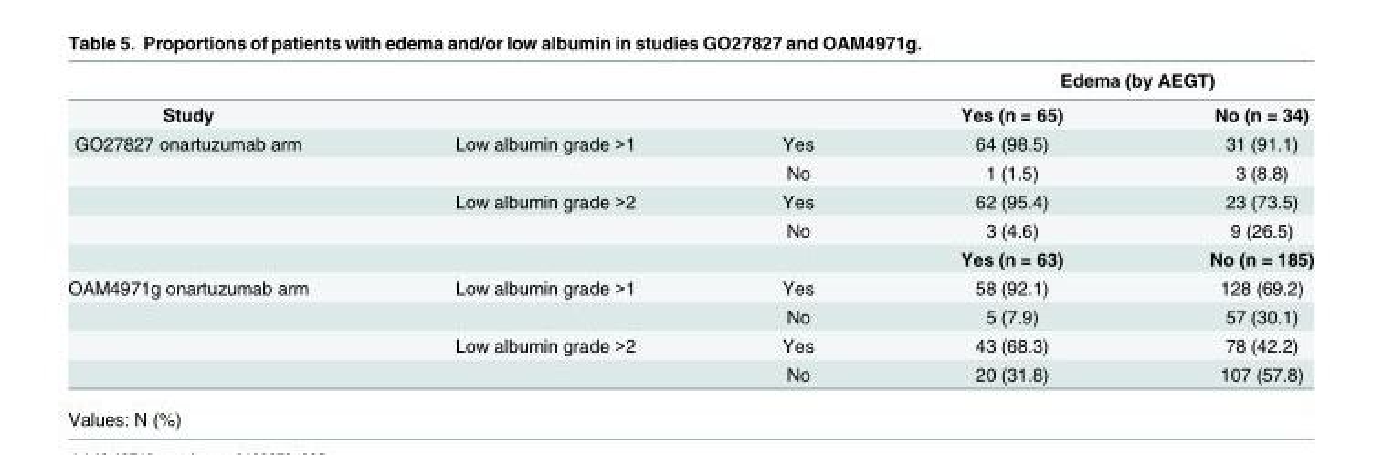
<table><thead><tr><td rowspan="2">Study</td><td rowspan="2"></td><td rowspan="2"></td><td colspan="2">Edema (by AEGT)</td></tr><tr><td>Yes (n = 65)</td><td>No (n = 34)</td></tr></thead><tbody><tr><td rowspan="5">GO27827 onartuzumab arm</td><td>Low albumin grade &gt;1</td><td>Yes</td><td>64 (98.5)</td><td>31 (91.1)</td></tr><tr><td></td><td>No</td><td>1 (1.5)</td><td>3 (8.8)</td></tr><tr><td>Low albumin grade &gt;2</td><td>Yes</td><td>62 (95.4)</td><td>23 (73.5)</td></tr><tr><td></td><td>No</td><td>3 (4.6)</td><td>9 (26.5)</td></tr><tr><td></td><td></td><td>Yes (n = 63)</td><td>No (n = 185)</td></tr><tr><td rowspan="4">OAM4971g onartuzumab arm</td><td>Low albumin grade &gt;1</td><td>Yes</td><td>58 (92.1)</td><td>128 (69.2)</td></tr><tr><td></td><td>No</td><td>5 (7.9)</td><td>57 (30.1)</td></tr><tr><td>Low albumin grade &gt;2</td><td>Yes</td><td>43 (68.3)</td><td>78 (42.2)</td></tr><tr><td></td><td>No</td><td>20 (31.8)</td><td>107 (57.8)</td></tr></tbody></table>